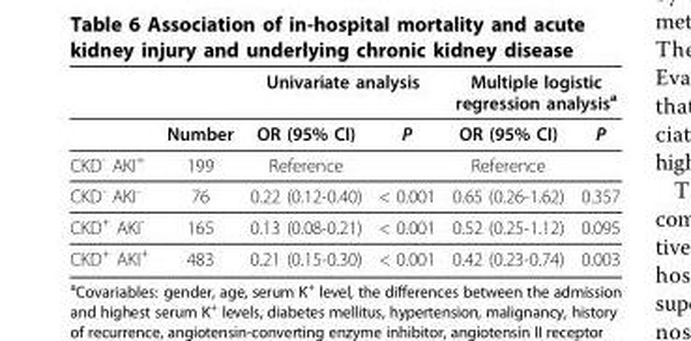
<table><thead><tr><td rowspan="2"></td><td rowspan="2">Number</td><td colspan="2">Univariate analysis</td><td colspan="2">Multiple logistic regression analysis<sup>a</sup></td></tr><tr><td>OR (95% CI)</td><td>P</td><td>OR (95% CI)</td><td>P</td></tr></thead><tbody><tr><td>CKD<sup>-</sup> AKI<sup>+</sup></td><td>199</td><td>Reference</td><td></td><td>Reference</td><td></td></tr><tr><td>CKD<sup>-</sup> AKI<sup>-</sup></td><td>76</td><td>0.22 (0.12-0.40)</td><td>&lt; 0.001</td><td>0.65 (0.26-1.62)</td><td>0.357</td></tr><tr><td>CKD<sup>+</sup> AKI<sup>-</sup></td><td>165</td><td>0.13 (0.08-0.21)</td><td>&lt; 0.001</td><td>0.52 (0.25-1.12)</td><td>0.095</td></tr><tr><td>CKD<sup>+</sup> AKI<sup>+</sup></td><td>483</td><td>0.21 (0.15-0.30)</td><td>&lt; 0.001</td><td>0.42 (0.23-0.74)</td><td>0.003</td></tr></tbody></table>